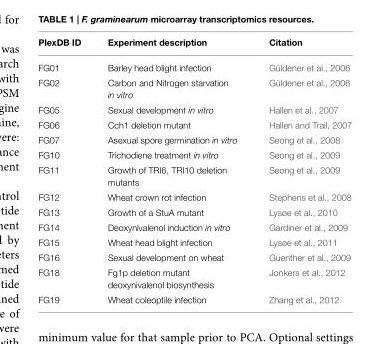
<table><thead><tr><td>PlexDB ID</td><td>Experiment description</td><td>Citation</td></tr></thead><tbody><tr><td>FG01</td><td>Barley head blight infection</td><td>Güldener et al., 2006</td></tr><tr><td>FG02</td><td>Carbon and Nitrogen starvation in vitro</td><td>Güldener et al., 2006</td></tr><tr><td>FG05</td><td>Sexual development in vitro</td><td>Hallen et al., 2007</td></tr><tr><td>FG06</td><td>Cch1 deletion mutant</td><td>Hallen and Trail, 2007</td></tr><tr><td>FG07</td><td>Asexual spore germination in vitro</td><td>Seong et al., 2008</td></tr><tr><td>FG10</td><td>Trichodiene treatment in vitro</td><td>Seong et al., 2009</td></tr><tr><td>FG11</td><td>Growth of TRI6, TRI10 deletion mutants</td><td>Seong et al., 2009</td></tr><tr><td>FG12</td><td>Wheat crown rot infection</td><td>Stephens et al., 2008</td></tr><tr><td>FG13</td><td>Growth of a StuA mutant</td><td>Lysøe et al., 2010</td></tr><tr><td>FG14</td><td>Deoxynivalenol induction in vitro</td><td>Gardiner et al., 2009</td></tr><tr><td>FG15</td><td>Wheat head blight infection</td><td>Lysøe et al., 2011</td></tr><tr><td>FG16</td><td>Sexual development on wheat</td><td>Guenther et al., 2009</td></tr><tr><td>FG18</td><td>Fg1p deletion mutant deoxynivalenol biosynthesis</td><td>Jonkers et al., 2012</td></tr><tr><td>FG19</td><td>Wheat coleoptile infection</td><td>Zhang et al., 2012</td></tr></tbody></table>